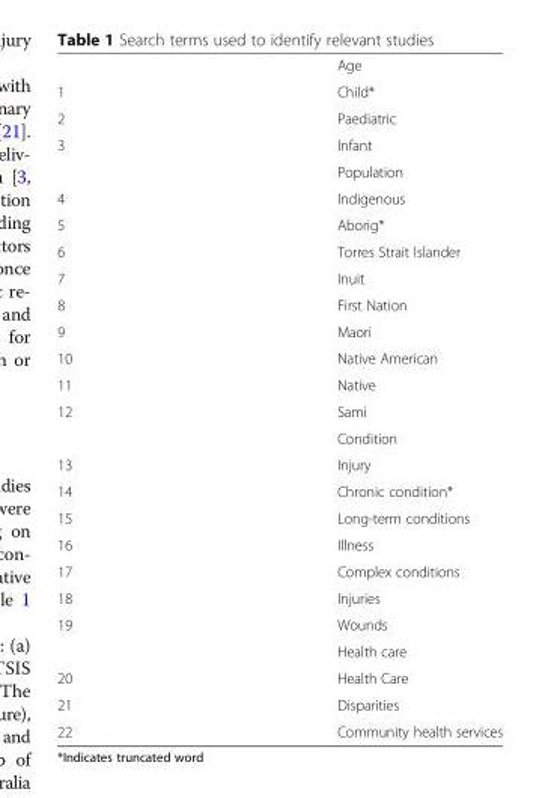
<table><thead><tr><td></td><td>Age</td></tr></thead><tbody><tr><td>1</td><td>Child*</td></tr><tr><td>2</td><td>Paediatric</td></tr><tr><td rowspan="2">3</td><td>Infant</td></tr><tr><td>Population</td></tr><tr><td>4</td><td>Indigenous</td></tr><tr><td>5</td><td>Aborig*</td></tr><tr><td>6</td><td>Torres Strait Islander</td></tr><tr><td>7</td><td>Inuit</td></tr><tr><td>8</td><td>First Nation</td></tr><tr><td>9</td><td>Maori</td></tr><tr><td>10</td><td>Native American</td></tr><tr><td>11</td><td>Native</td></tr><tr><td rowspan="2">12</td><td>Sami</td></tr><tr><td>Condition</td></tr><tr><td>13</td><td>Injury</td></tr><tr><td>14</td><td>Chronic condition*</td></tr><tr><td>15</td><td>Long-term conditions</td></tr><tr><td>16</td><td>Illness</td></tr><tr><td>17</td><td>Complex conditions</td></tr><tr><td>18</td><td>Injuries</td></tr><tr><td rowspan="2">19</td><td>Wounds</td></tr><tr><td>Health care</td></tr><tr><td>20</td><td>Health Care</td></tr><tr><td>21</td><td>Disparities</td></tr><tr><td>22</td><td>Community health services</td></tr></tbody></table>